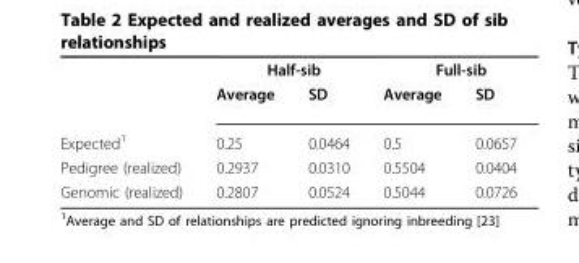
<table><thead><tr><td rowspan="2"></td><td colspan="2">Half-sib</td><td colspan="2">Full-sib</td></tr><tr><td>Average</td><td>SD</td><td>Average</td><td>SD</td></tr></thead><tbody><tr><td>Expected<sup>1</sup></td><td>0.25</td><td>0.0464</td><td>0.5</td><td>0.0657</td></tr><tr><td>Pedigree (realized)</td><td>0.2937</td><td>0.0310</td><td>0.5504</td><td>0.0404</td></tr><tr><td>Genomic (realized)</td><td>0.2807</td><td>0.0524</td><td>0.5044</td><td>0.0726</td></tr></tbody></table>